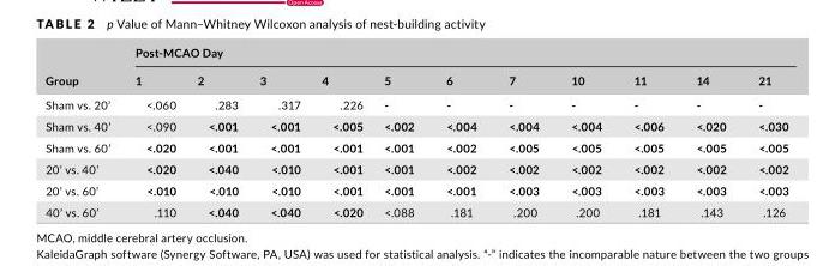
<table><thead><tr><td rowspan="2">Group</td><td colspan="11">Post- MCAO Day</td></tr><tr><td>1</td><td>2</td><td>3</td><td>4</td><td>5</td><td>6</td><td>7</td><td>10</td><td>11</td><td>14</td><td>21</td></tr></thead><tbody><tr><td>Sham vs. 20’</td><td>&lt;.060</td><td>.283</td><td>.317</td><td>.226</td><td>-</td><td>-</td><td>-</td><td>-</td><td>-</td><td>-</td><td>-</td></tr><tr><td>Sham vs. 40’</td><td>&lt;.090</td><td>&lt;.001</td><td>&lt;.001</td><td>&lt;.005</td><td>&lt;.002</td><td>&lt;.004</td><td>&lt;.004</td><td>&lt;.004</td><td>&lt;.006</td><td>&lt;.020</td><td>&lt;.030</td></tr><tr><td>Sham vs. 60’</td><td>&lt;.020</td><td>&lt;.001</td><td>&lt;.001</td><td>&lt;.001</td><td>&lt;.001</td><td>&lt;.002</td><td>&lt;.005</td><td>&lt;.005</td><td>&lt;.005</td><td>&lt;.005</td><td>&lt;.005</td></tr><tr><td>20’ vs. 40’</td><td>&lt;.020</td><td>&lt;.040</td><td>&lt;.010</td><td>&lt;.001</td><td>&lt;.001</td><td>&lt;.002</td><td>&lt;.002</td><td>&lt;.002</td><td>&lt;.002</td><td>&lt;.002</td><td>&lt;.002</td></tr><tr><td>20’ vs. 60’</td><td>&lt;.010</td><td>&lt;.010</td><td>&lt;.010</td><td>&lt;.001</td><td>&lt;.001</td><td>&lt;.001</td><td>&lt;.003</td><td>&lt;.003</td><td>&lt;.003</td><td>&lt;.003</td><td>&lt;.003</td></tr><tr><td>40’ vs. 60’</td><td>.110</td><td>&lt;.040</td><td>&lt;.040</td><td>&lt;.020</td><td>&lt;.088</td><td>.181</td><td>.200</td><td>.200</td><td>.181</td><td>.143</td><td>.126</td></tr></tbody></table>